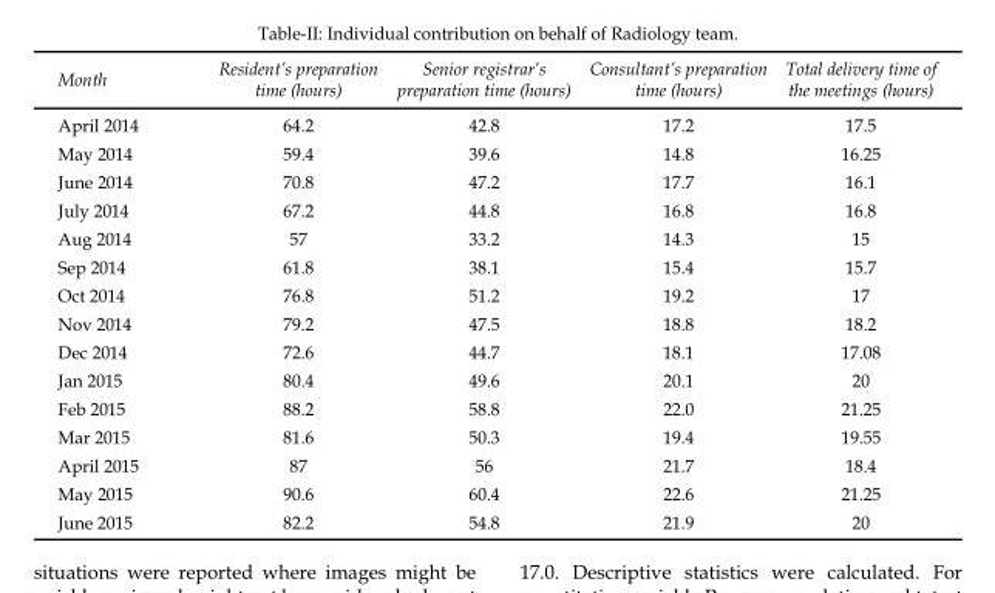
<table><thead><tr><td>Month</td><td>Resident’s preparation time (hours)</td><td>Senior registrar’s preparation time (hours)</td><td>Consultant’s preparation time (hours)</td><td>Total delivery time of the meetings (hours)</td></tr></thead><tbody><tr><td>April 2014</td><td>64.2</td><td>42.8</td><td>17.2</td><td>17.5</td></tr><tr><td>May 2014</td><td>59.4</td><td>39.6</td><td>14.8</td><td>16.25</td></tr><tr><td>June 2014</td><td>70.8</td><td>47.2</td><td>17.7</td><td>16.1</td></tr><tr><td>July 2014</td><td>67.2</td><td>44.8</td><td>16.8</td><td>16.8</td></tr><tr><td>Aug 2014</td><td>57</td><td>33.2</td><td>14.3</td><td>15</td></tr><tr><td>Sep 2014</td><td>61.8</td><td>38.1</td><td>15.4</td><td>15.7</td></tr><tr><td>Oct 2014</td><td>76.8</td><td>51.2</td><td>19.2</td><td>17</td></tr><tr><td>Nov 2014</td><td>79.2</td><td>47.5</td><td>18.8</td><td>18.2</td></tr><tr><td>Dec 2014</td><td>72.6</td><td>44.7</td><td>18.1</td><td>17.08</td></tr><tr><td>Jan 2015</td><td>80.4</td><td>49.6</td><td>20.1</td><td>20</td></tr><tr><td>Feb 2015</td><td>88.2</td><td>58.8</td><td>22.0</td><td>21.25</td></tr><tr><td>Mar 2015</td><td>81.6</td><td>50.3</td><td>19.4</td><td>19.55</td></tr><tr><td>April 2015</td><td>87</td><td>56</td><td>21.7</td><td>18.4</td></tr><tr><td>May 2015</td><td>90.6</td><td>60.4</td><td>22.6</td><td>21.25</td></tr><tr><td>June 2015</td><td>82.2</td><td>54.8</td><td>21.9</td><td>20</td></tr></tbody></table>